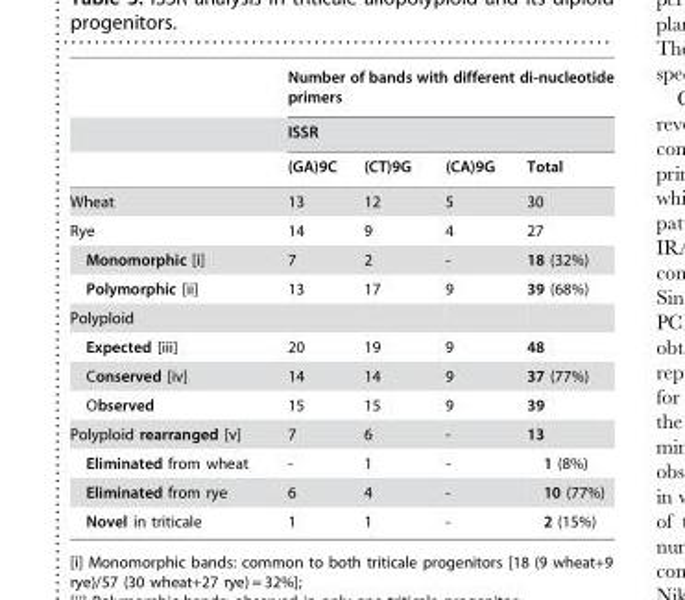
<table><thead><tr><td rowspan="3"></td><td rowspan="2" colspan="4">Number of bands with different di-nucleotide primers ISSR</td></tr><tr></tr><tr><td>(GA)9C</td><td>(CT)9G</td><td>(CA)9G</td><td>Total</td></tr></thead><tbody><tr><td>Wheat</td><td>13</td><td>12</td><td>5</td><td>30</td></tr><tr><td>Rye</td><td>14</td><td>9</td><td>4</td><td>27</td></tr><tr><td>Monomorphic [i]</td><td>7</td><td>2</td><td>-</td><td>18 (32%)</td></tr><tr><td>Polymorphic [ii]</td><td>13</td><td>17</td><td>9</td><td>39 (68%)</td></tr><tr><td colspan="5">Polyploid</td></tr><tr><td>Expected [iii]</td><td>20</td><td>19</td><td>9</td><td>48</td></tr><tr><td>Conserved [iv]</td><td>14</td><td>14</td><td>9</td><td>37 (77%)</td></tr><tr><td>Observed</td><td>15</td><td>15</td><td>9</td><td>39</td></tr><tr><td>Polyploid rearranged [v]</td><td>7</td><td>6</td><td>-</td><td>13</td></tr><tr><td>Eliminated from wheat</td><td>-</td><td>1</td><td>-</td><td>1 (8%)</td></tr><tr><td>Eliminated from rye</td><td>6</td><td>4</td><td>-</td><td>10 (77%)</td></tr><tr><td>Novel in triticale</td><td>1</td><td>1</td><td>-</td><td>2 (15%)</td></tr></tbody></table>